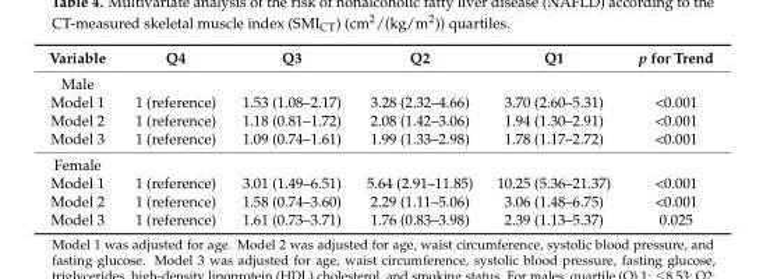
<table><thead><tr><td>Variable</td><td>Q4</td><td>Q3</td><td>Q2</td><td>Q1</td><td>p for Trend</td></tr></thead><tbody><tr><td colspan="6">Male</td></tr><tr><td>Model 1</td><td>1 (reference)</td><td>1.53 (1.08–2.17)</td><td>3.28 (2.32–4.66)</td><td>3.70 (2.60–5.31)</td><td>&lt;0.001</td></tr><tr><td>Model 2</td><td>1 (reference)</td><td>1.18 (0.81–1.72)</td><td>2.08 (1.42–3.06)</td><td>1.94 (1.30–2.91)</td><td>&lt;0.001</td></tr><tr><td>Model 3</td><td>1 (reference)</td><td>1.09 (0.74–1.61)</td><td>1.99 (1.33–2.98)</td><td>1.78 (1.17–2.72)</td><td>&lt;0.001</td></tr><tr><td colspan="6">Female</td></tr><tr><td>Model 1</td><td>1 (reference)</td><td>3.01 (1.49–6.51)</td><td>5.64 (2.91–11.85)</td><td>10.25 (5.36–21.37)</td><td>&lt;0.001</td></tr><tr><td>Model 2</td><td>1 (reference)</td><td>1.58 (0.74–3.60)</td><td>2.29 (1.11–5.06)</td><td>3.06 (1.48–6.75)</td><td>&lt;0.001</td></tr><tr><td>Model 3</td><td>1 (reference)</td><td>1.61 (0.73–3.71)</td><td>1.76 (0.83–3.98)</td><td>2.39 (1.13–5.37)</td><td>0.025</td></tr></tbody></table>